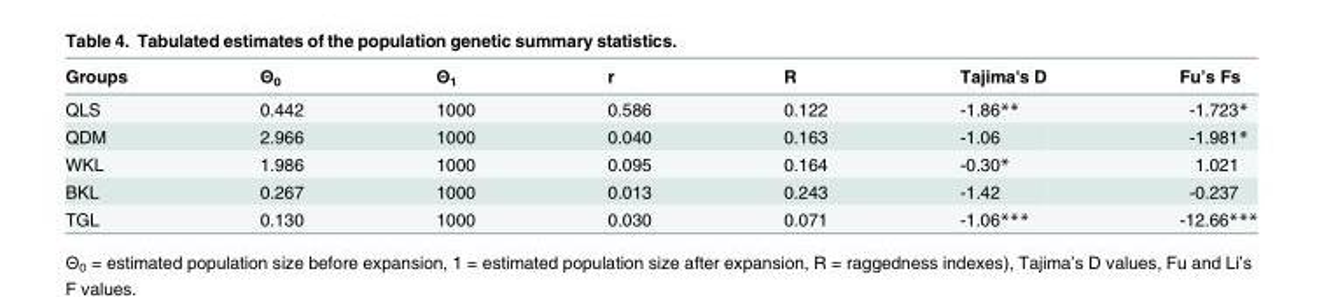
<table><thead><tr><td>Groups</td><td>Θ<sub>0</sub></td><td>Θ<sub>1</sub></td><td>r</td><td>R</td><td>Tajima&#x27;s D</td><td>Fu’s Fs</td></tr></thead><tbody><tr><td>QLS</td><td>0.442</td><td>1000</td><td>0.586</td><td>0.122</td><td>-1.86**</td><td>-1.723*</td></tr><tr><td>QDM</td><td>2.966</td><td>1000</td><td>0.040</td><td>0.163</td><td>-1.06</td><td>-1.981*</td></tr><tr><td>WKL</td><td>1.986</td><td>1000</td><td>0.095</td><td>0.164</td><td>-0.30*</td><td>1.021</td></tr><tr><td>BKL</td><td>0.267</td><td>1000</td><td>0.013</td><td>0.243</td><td>-1.42</td><td>-0.237</td></tr><tr><td>TGL</td><td>0.130</td><td>1000</td><td>0.030</td><td>0.071</td><td>-1.06***</td><td>-12.66***</td></tr></tbody></table>